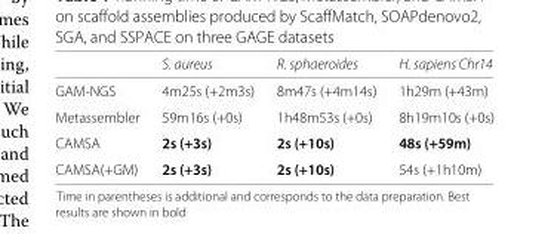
<table><thead><tr><td></td><td>S. aureus</td><td>R. sphaeroides</td><td>H. sapiens Chr14</td></tr></thead><tbody><tr><td>GAM-NGS</td><td>4m25s (+2m3s)</td><td>8m47s (+4m14s)</td><td>1h29m (+43m)</td></tr><tr><td>Metassembler</td><td>59m16s (+0s)</td><td>1h48m53s (+0s)</td><td>8h19m10s (+0s)</td></tr><tr><td>CAMSA</td><td>2s (+3s)</td><td>2s (+10s)</td><td>48s (+59m)</td></tr><tr><td>CAMSA(+GM)</td><td>2s (+3s)</td><td>2s (+10s)</td><td>54s (+1h10m)</td></tr></tbody></table>